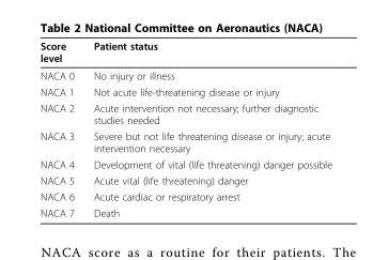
<table><thead><tr><td>Score level</td><td>Patient status</td></tr></thead><tbody><tr><td>NACA 0</td><td>No injury or illness</td></tr><tr><td>NACA 1</td><td>Not acute life-threatening disease or injury</td></tr><tr><td>NACA 2</td><td>Acute intervention not necessary; further diagnostic studies needed</td></tr><tr><td>NACA 3</td><td>Severe but not life threatening disease or injury; acute intervention necessary</td></tr><tr><td>NACA 4</td><td>Development of vital (life threatening) danger possible</td></tr><tr><td>NACA 5</td><td>Acute vital (life threatening) danger</td></tr><tr><td>NACA 6</td><td>Acute cardiac or respiratory arrest</td></tr><tr><td>NACA 7</td><td>Death</td></tr></tbody></table>